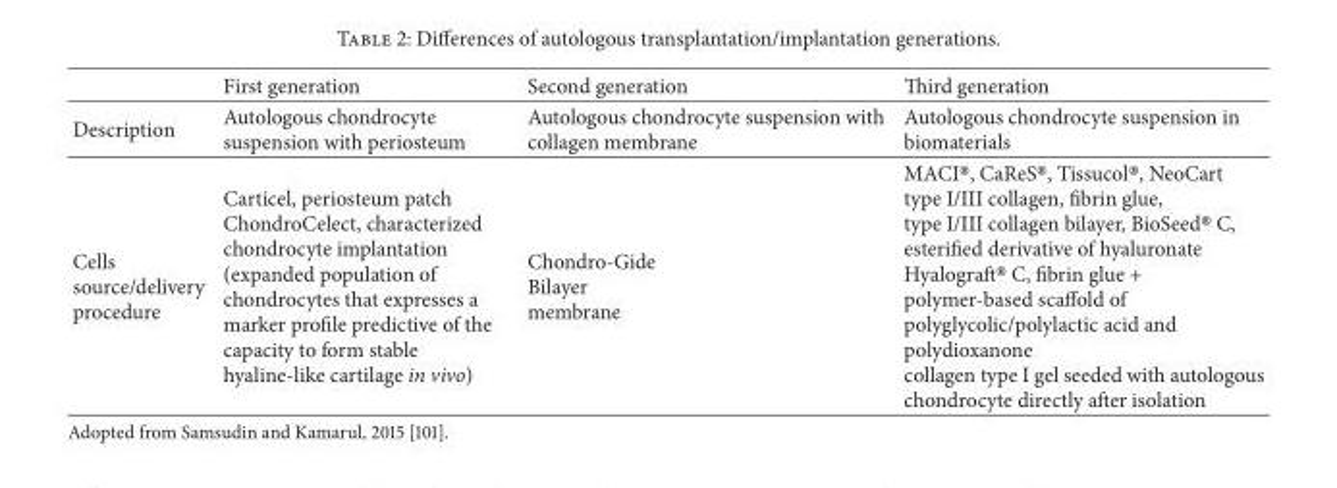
<table><thead><tr><td></td><td>First generation</td><td>Second generation</td><td>Third generation</td></tr></thead><tbody><tr><td>Description</td><td>Autologous chondrocyte suspension with periosteum</td><td>Autologous chondrocyte suspension with collagen membrane</td><td>Autologous chondrocyte suspension in biomaterials</td></tr><tr><td>Cells source/delivery procedure</td><td>Carticel, periosteum patch ChondroCelect, characterized chondrocyte implantation (expanded population of chondrocytes that expresses a marker profile predictive of the capacity to form stable hyaline-like cartilage in vivo)</td><td>Chondro-Gide Bilayer membrane</td><td>MACI®, CaReS®, Tissucol®, NeoCart type I/III collagen, fibrin glue, type I/III collagen bilayer, BioSeed® C, esterified derivative of hyaluronate Hyalograft® C, fibrin glue + polymer-based scaffold of polyglycolic/polylactic acid and polydioxanone collagen type I gel seeded with autologous chondrocyte directly after isolation</td></tr></tbody></table>